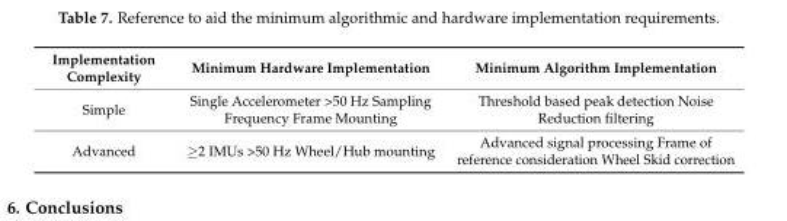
<table><thead><tr><td>Implementation Complexity</td><td>Minimum Hardware Implementation</td><td>Minimum Algorithm Implementation</td></tr></thead><tbody><tr><td>Simple</td><td>Single Accelerometer &gt;50 Hz Sampling Frequency Frame Mounting</td><td>Threshold based peak detection Noise Reduction filtering</td></tr><tr><td>Advanced</td><td>≥2 IMUs &gt;50 Hz Wheel/Hub mounting</td><td>Advanced signal processing Frame of reference consideration Wheel Skid correction</td></tr></tbody></table>